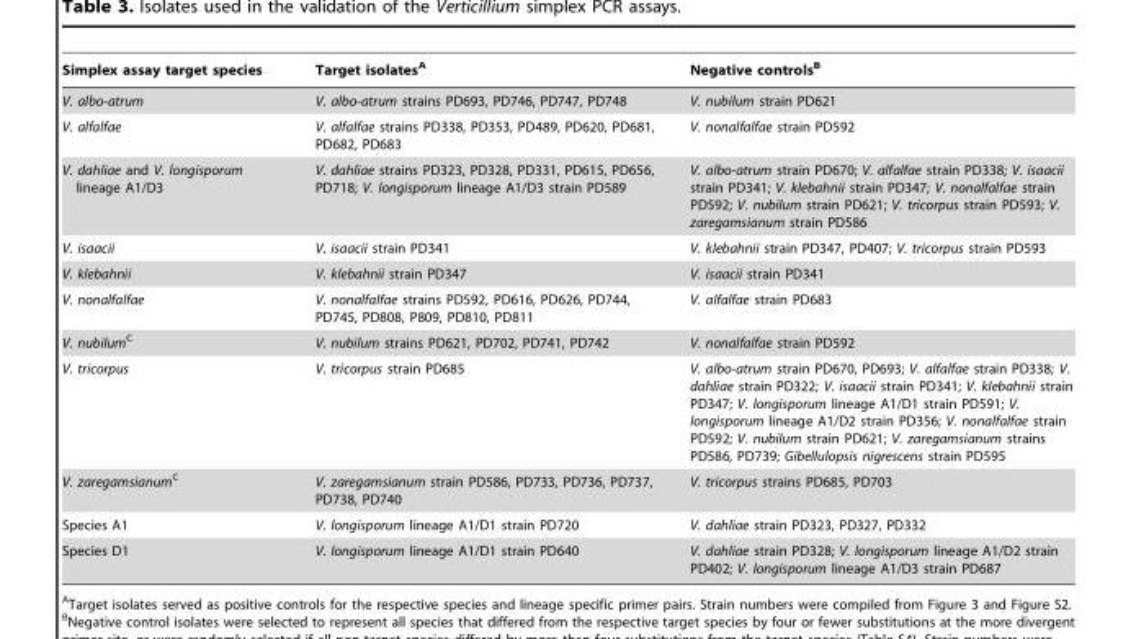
<table><thead><tr><td>Simplex assay target species</td><td>Target isolates<sup>A</sup></td><td>Negative controls<sup>B</sup></td></tr></thead><tbody><tr><td>V. albo-atrum</td><td>V. albo-atrum strains PD693, PD746, PD747, PD748</td><td>V. nubilum strain PD621</td></tr><tr><td>V. alfalfae</td><td>V. alfalfae strains PD338, PD353, PD489, PD620, PD681, PD682, PD683</td><td>V. nonalfalfae strain PD592</td></tr><tr><td>V. dahliae and V. longisporum lineage A1/D3</td><td>V. dahliae strains PD323, PD328, PD331, PD615, PD656, PD718; V. longisporum lineage A1/D3 strain PD589</td><td>V. albo-atrum strain PD670; V. alfalfae strain PD338; V. isaacii strain PD341; V. klebahnii strain PD347; V. nonalfalfae strain PD592; V. nubilum strain PD621; V. tricorpus strain PD593; V. zaregamsianum strain PD586</td></tr><tr><td>V. isaacii</td><td>V. isaacii strain PD341</td><td>V. klebahnii strain PD347, PD407; V. tricorpus strain PD593</td></tr><tr><td>V. klebahnii</td><td>V. klebahnii strain PD347</td><td>V. isaacii strain PD341</td></tr><tr><td>V. nonalfalfae</td><td>V. nonalfalfae strains PD592, PD616, PD626, PD744, PD745, PD808, P809, PD810, PD811</td><td>V. alfalfae strain PD683</td></tr><tr><td>V. nubilumC</td><td>V. nubilum strains PD621, PD702, PD741, PD742</td><td>V. nonalfalfae strain PD592</td></tr><tr><td>V. tricorpus</td><td>V. tricorpus strain PD685</td><td>V. albo-atrum strain PD670, PD693; V. alfalfae strain PD338; V. dahliae strain PD322; V. isaacii strain PD341; V. klebahnii strain PD347; V. longisporum lineage A1/D1 strain PD591; V. longisporum lineage A1/D2 strain PD356; V. nonalfalfae strain PD592; V. nubilum strain PD621; V. zaregamsianum strains PD586, PD739; Gibellulopsis nigrescens strain PD595</td></tr><tr><td>V. zaregamsianumC</td><td>V. zaregamsianum strain PD586, PD733, PD736, PD737, PD738, PD740</td><td>V. tricorpus strains PD685, PD703</td></tr><tr><td>Species A1</td><td>V. longisporum lineage A1/D1 strain PD720</td><td>V. dahliae strain PD323, PD327, PD332</td></tr><tr><td>Species D1</td><td>V. longisporum lineage A1/D1 strain PD640</td><td>V. dahliae strain PD328; V. longisporum lineage A1/D2 strain PD402; V. longisporum lineage A1/D3 strain PD687</td></tr></tbody></table>